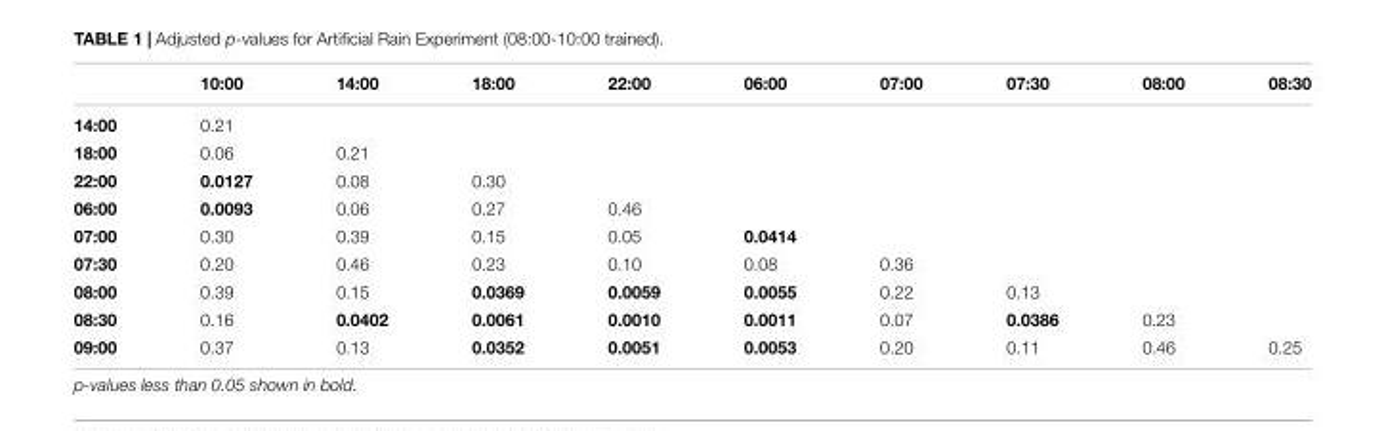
<table><thead><tr><td></td><td>10:00</td><td>14:00</td><td>18:00</td><td>22:00</td><td>06:00</td><td>07:00</td><td>07:30</td><td>08:00</td><td>08:30</td></tr></thead><tbody><tr><td>14:00</td><td>0.21</td><td></td><td></td><td></td><td></td><td></td><td></td><td></td><td></td></tr><tr><td>18:00</td><td>0.06</td><td>0.21</td><td></td><td></td><td></td><td></td><td></td><td></td><td></td></tr><tr><td>22:00</td><td>0.0127</td><td>0.08</td><td>0.30</td><td></td><td></td><td></td><td></td><td></td><td></td></tr><tr><td>06:00</td><td>0.0093</td><td>0.06</td><td>0.27</td><td>0.46</td><td></td><td></td><td></td><td></td><td></td></tr><tr><td>07:00</td><td>0.30</td><td>0.39</td><td>0.15</td><td>0.05</td><td>0.0414</td><td></td><td></td><td></td><td></td></tr><tr><td>07:30</td><td>0.20</td><td>0.46</td><td>0.23</td><td>0.10</td><td>0.08</td><td>0.36</td><td></td><td></td><td></td></tr><tr><td>08:00</td><td>0.39</td><td>0.15</td><td>0.0369</td><td>0.0059</td><td>0.0055</td><td>0.22</td><td>0.13</td><td></td><td></td></tr><tr><td>08:30</td><td>0.16</td><td>0.0402</td><td>0.0061</td><td>0.0010</td><td>0.0011</td><td>0.07</td><td>0.0386</td><td>0.23</td><td></td></tr><tr><td>09:00</td><td>0.37</td><td>0.13</td><td>0.0352</td><td>0.0051</td><td>0.0053</td><td>0.20</td><td>0.11</td><td>0.46</td><td>0.25</td></tr></tbody></table>